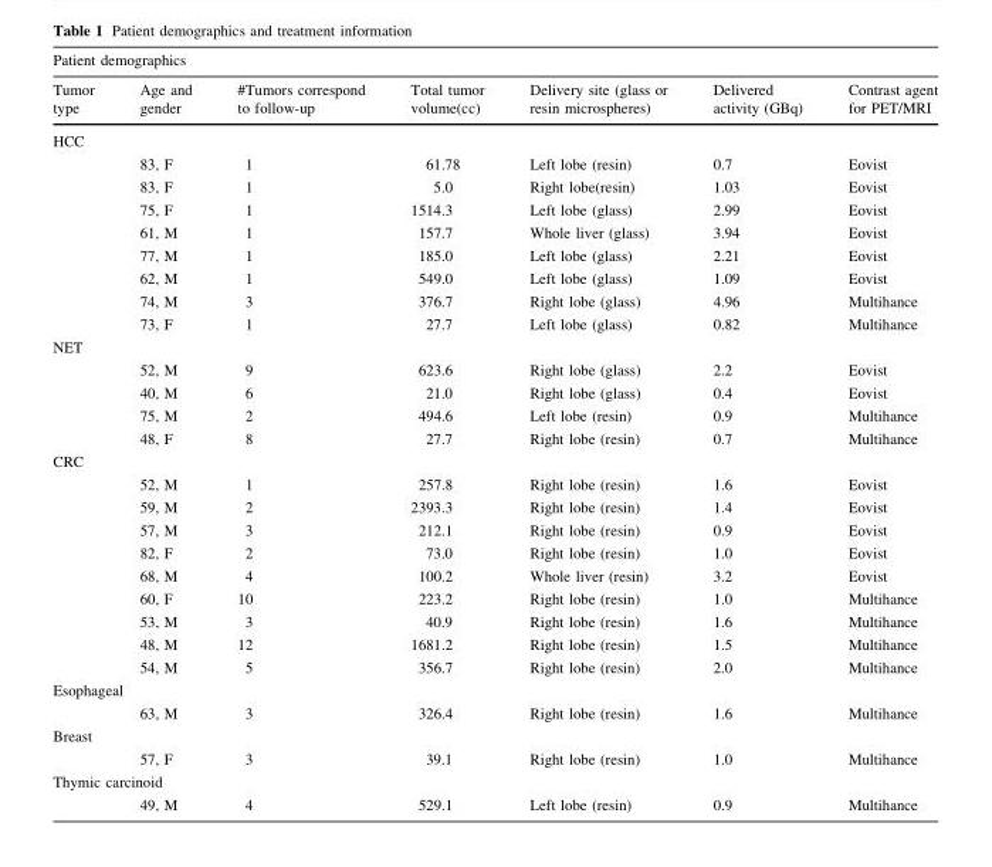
<table><thead><tr><td colspan="7">Patient demographics</td></tr><tr><td>Tumor type</td><td>Age and gender</td><td>#Tumors correspond to follow-up</td><td>Total tumor volume(cc)</td><td>Delivery site (glass or resin microspheres)</td><td>Delivered activity (GBq)</td><td>Contrast agent for PET/MRI</td></tr></thead><tbody><tr><td colspan="7">HCC</td></tr><tr><td></td><td>83, F</td><td>1</td><td>61.78</td><td>Left lobe (resin)</td><td>0.7</td><td>Eovist</td></tr><tr><td></td><td>83, F</td><td>1</td><td>5.0</td><td>Right lobe(resin)</td><td>1.03</td><td>Eovist</td></tr><tr><td></td><td>75, F</td><td>1</td><td>1514.3</td><td>Left lobe (glass)</td><td>2.99</td><td>Eovist</td></tr><tr><td></td><td>61, M</td><td>1</td><td>157.7</td><td>Whole liver (glass)</td><td>3.94</td><td>Eovist</td></tr><tr><td></td><td>77, M</td><td>1</td><td>185.0</td><td>Left lobe (glass)</td><td>2.21</td><td>Eovist</td></tr><tr><td></td><td>62, M</td><td>1</td><td>549.0</td><td>Left lobe (glass)</td><td>1.09</td><td>Eovist</td></tr><tr><td></td><td>74, M</td><td>3</td><td>376.7</td><td>Right lobe (glass)</td><td>4.96</td><td>Multihance</td></tr><tr><td></td><td>73, F</td><td>1</td><td>27.7</td><td>Left lobe (glass)</td><td>0.82</td><td>Multihance</td></tr><tr><td colspan="7">NET</td></tr><tr><td></td><td>52, M</td><td>9</td><td>623.6</td><td>Right lobe (glass)</td><td>2.2</td><td>Eovist</td></tr><tr><td></td><td>40, M</td><td>6</td><td>21.0</td><td>Right lobe (glass)</td><td>0.4</td><td>Eovist</td></tr><tr><td></td><td>75, M</td><td>2</td><td>494.6</td><td>Left lobe (resin)</td><td>0.9</td><td>Multihance</td></tr><tr><td></td><td>48, F</td><td>8</td><td>27.7</td><td>Right lobe (resin)</td><td>0.7</td><td>Multihance</td></tr><tr><td colspan="7">CRC</td></tr><tr><td></td><td>52, M</td><td>1</td><td>257.8</td><td>Right lobe (resin)</td><td>1.6</td><td>Eovist</td></tr><tr><td></td><td>59, M</td><td>2</td><td>2393.3</td><td>Right lobe (resin)</td><td>1.4</td><td>Eovist</td></tr><tr><td></td><td>57, M</td><td>3</td><td>212.1</td><td>Right lobe (resin)</td><td>0.9</td><td>Eovist</td></tr><tr><td></td><td>82, F</td><td>2</td><td>73.0</td><td>Right lobe (resin)</td><td>1.0</td><td>Eovist</td></tr><tr><td></td><td>68, M</td><td>4</td><td>100.2</td><td>Whole liver (resin)</td><td>3.2</td><td>Eovist</td></tr><tr><td></td><td>60, F</td><td>10</td><td>223.2</td><td>Right lobe (resin)</td><td>1.0</td><td>Multihance</td></tr><tr><td></td><td>53, M</td><td>3</td><td>40.9</td><td>Right lobe (resin)</td><td>1.6</td><td>Multihance</td></tr><tr><td></td><td>48, M</td><td>12</td><td>1681.2</td><td>Right lobe (resin)</td><td>1.5</td><td>Multihance</td></tr><tr><td></td><td>54, M</td><td>5</td><td>356.7</td><td>Right lobe (resin)</td><td>2.0</td><td>Multihance</td></tr><tr><td colspan="7">Esophageal</td></tr><tr><td></td><td>63, M</td><td>3</td><td>326.4</td><td>Right lobe (resin)</td><td>1.6</td><td>Multihance</td></tr><tr><td colspan="7">Breast</td></tr><tr><td></td><td>57, F</td><td>3</td><td>39.1</td><td>Right lobe (resin)</td><td>1.0</td><td>Multihance</td></tr><tr><td colspan="7">Thymic carcinoid</td></tr><tr><td></td><td>49, M</td><td>4</td><td>529.1</td><td>Left lobe (resin)</td><td>0.9</td><td>Multihance</td></tr></tbody></table>